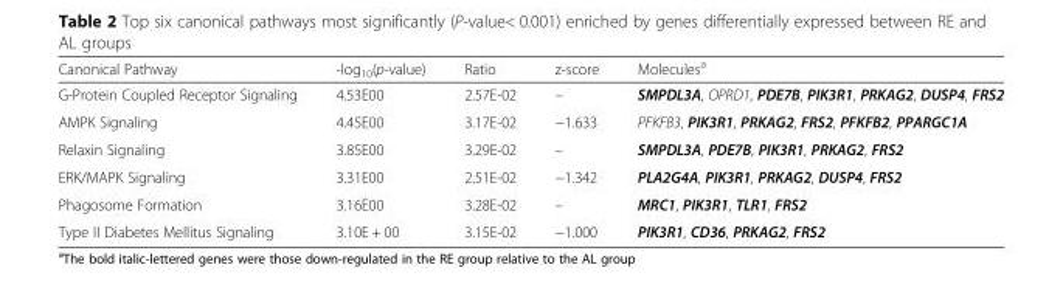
<table><thead><tr><td>Canonical Pathway</td><td>-log<sub>10</sub>(p-value)</td><td>Ratio</td><td>z-score</td><td>Molecules<sup>a</sup></td></tr></thead><tbody><tr><td>G-Protein Coupled Receptor Signaling</td><td>4.53E00</td><td>2.57E-02</td><td>–</td><td>SMPDL3A, OPRD1, PDE7B, PIK3R1, PRKAG2, DUSP4, FRS2</td></tr><tr><td>AMPK Signaling</td><td>4.45E00</td><td>3.17E-02</td><td>−1.633</td><td>PFKFB3, PIK3R1, PRKAG2, FRS2, PFKFB2, PPARGC1A</td></tr><tr><td>Relaxin Signaling</td><td>3.85E00</td><td>3.29E-02</td><td>–</td><td>SMPDL3A, PDE7B, PIK3R1, PRKAG2, FRS2</td></tr><tr><td>ERK/MAPK Signaling</td><td>3.31E00</td><td>2.51E-02</td><td>−1.342</td><td>PLA2G4A, PIK3R1, PRKAG2, DUSP4, FRS2</td></tr><tr><td>Phagosome Formation</td><td>3.16E00</td><td>3.28E-02</td><td>–</td><td>MRC1, PIK3R1, TLR1, FRS2</td></tr><tr><td>Type II Diabetes Mellitus Signaling</td><td>3.10E + 00</td><td>3.15E-02</td><td>−1.000</td><td>PIK3R1, CD36, PRKAG2, FRS2</td></tr></tbody></table>